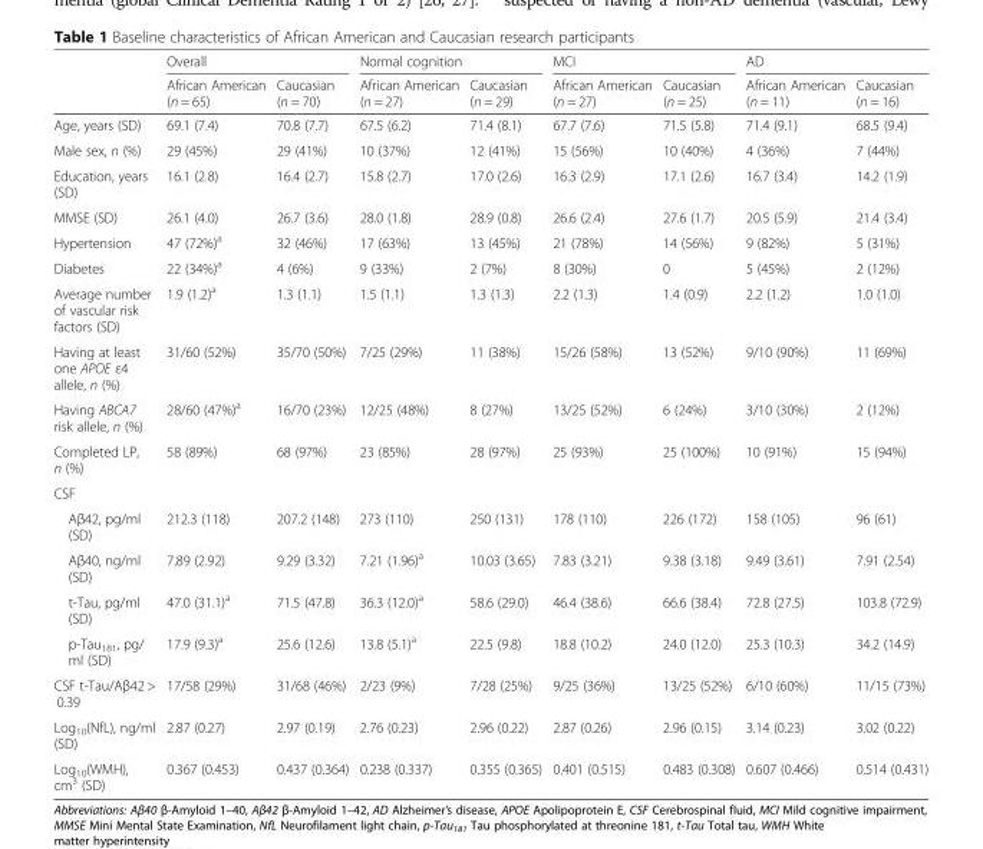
<table><thead><tr><td rowspan="2"></td><td colspan="2">Overall</td><td colspan="2">Normal cognition</td><td colspan="2">MCI</td><td colspan="2">AD</td></tr><tr><td>African American (n = 65)</td><td>Caucasian (n = 70)</td><td>African American (n = 27)</td><td>Caucasian (n = 29)</td><td>African American (n = 27)</td><td>Caucasian (n = 25)</td><td>African American (n = 11)</td><td>Caucasian (n = 16)</td></tr></thead><tbody><tr><td>Age, years (SD)</td><td>69.1 (7.4)</td><td>70.8 (7.7)</td><td>67.5 (6.2)</td><td>71.4 (8.1)</td><td>67.7 (7.6)</td><td>71.5 (5.8)</td><td>71.4 (9.1)</td><td>68.5 (9.4)</td></tr><tr><td>Male sex, n (%)</td><td>29 (45%)</td><td>29 (41%)</td><td>10 (37%)</td><td>12 (41%)</td><td>15 (56%)</td><td>10 (40%)</td><td>4 (36%)</td><td>7 (44%)</td></tr><tr><td>Education, years (SD)</td><td>16.1 (2.8)</td><td>16.4 (2.7)</td><td>15.8 (2.7)</td><td>17.0 (2.6)</td><td>16.3 (2.9)</td><td>17.1 (2.6)</td><td>16.7 (3.4)</td><td>14.2 (1.9)</td></tr><tr><td>MMSE (SD)</td><td>26.1 (4.0)</td><td>26.7 (3.6)</td><td>28.0 (1.8)</td><td>28.9 (0.8)</td><td>26.6 (2.4)</td><td>27.6 (1.7)</td><td>20.5 (5.9)</td><td>21.4 (3.4)</td></tr><tr><td>Hypertension</td><td>47 (72%)<sup>a</sup></td><td>32 (46%)</td><td>17 (63%)</td><td>13 (45%)</td><td>21 (78%)</td><td>14 (56%)</td><td>9 (82%)</td><td>5 (31%)</td></tr><tr><td>Diabetes</td><td>22 (34%)<sup>a</sup></td><td>4 (6%)</td><td>9 (33%)</td><td>2 (7%)</td><td>8 (30%)</td><td>0</td><td>5 (45%)</td><td>2 (12%)</td></tr><tr><td>Average number of vascular risk factors (SD)</td><td>1.9 (1.2)<sup>a</sup></td><td>1.3 (1.1)</td><td>1.5 (1.1)</td><td>1.3 (1.3)</td><td>2.2 (1.3)</td><td>1.4 (0.9)</td><td>2.2 (1.2)</td><td>1.0 (1.0)</td></tr><tr><td>Having at least one APOE ε4 allele, n (%)</td><td>31/60 (52%)</td><td>35/70 (50%)</td><td>7/25 (29%)</td><td>11 (38%)</td><td>15/26 (58%)</td><td>13 (52%)</td><td>9/10 (90%)</td><td>11 (69%)</td></tr><tr><td>Having ABCA7 risk allele, n (%)</td><td>28/60 (47%)<sup>a</sup></td><td>16/70 (23%)</td><td>12/25 (48%)</td><td>8 (27%)</td><td>13/25 (52%)</td><td>6 (24%)</td><td>3/10 (30%)</td><td>2 (12%)</td></tr><tr><td>Completed LP, n (%)</td><td>58 (89%)</td><td>68 (97%)</td><td>23 (85%)</td><td>28 (97%)</td><td>25 (93%)</td><td>25 (100%)</td><td>10 (91%)</td><td>15 (94%)</td></tr><tr><td colspan="9">CSF</td></tr><tr><td>Aβ42, pg/ml (SD)</td><td>212.3 (118)</td><td>207.2 (148)</td><td>273 (110)</td><td>250 (131)</td><td>178 (110)</td><td>226 (172)</td><td>158 (105)</td><td>96 (61)</td></tr><tr><td>Aβ40, ng/ml (SD)</td><td>7.89 (2.92)</td><td>9.29 (3.32)</td><td>7.21 (1.96)<sup>a</sup></td><td>10.03 (3.65)</td><td>7.83 (3.21)</td><td>9.38 (3.18)</td><td>9.49 (3.61)</td><td>7.91 (2.54)</td></tr><tr><td>t-Tau, pg/ml (SD)</td><td>47.0 (31.1)<sup>a</sup></td><td>71.5 (47.8)</td><td>36.3 (12.0)<sup>a</sup></td><td>58.6 (29.0)</td><td>46.4 (38.6)</td><td>66.6 (38.4)</td><td>72.8 (27.5)</td><td>103.8 (72.9)</td></tr><tr><td>p-Tau<sub>181</sub>, pg/ ml (SD)</td><td>17.9 (9.3)<sup>a</sup></td><td>25.6 (12.6)</td><td>13.8 (5.1)<sup>a</sup></td><td>22.5 (9.8)</td><td>18.8 (10.2)</td><td>24.0 (12.0)</td><td>25.3 (10.3)</td><td>34.2 (14.9)</td></tr><tr><td>CSF t-Tau/Aβ42 &gt; 0.39</td><td>17/58 (29%)</td><td>31/68 (46%)</td><td>2/23 (9%)</td><td>7/28 (25%)</td><td>9/25 (36%)</td><td>13/25 (52%)</td><td>6/10 (60%)</td><td>11/15 (73%)</td></tr><tr><td>Log<sub>10</sub>(NfL), ng/ml (SD)</td><td>2.87 (0.27)</td><td>2.97 (0.19)</td><td>2.76 (0.23)</td><td>2.96 (0.22)</td><td>2.87 (0.26)</td><td>2.96 (0.15)</td><td>3.14 (0.23)</td><td>3.02 (0.22)</td></tr><tr><td>Log<sub>10</sub>(WMH), cm<sup>3</sup> (SD)</td><td>0.367 (0.453)</td><td>0.437 (0.364)</td><td>0.238 (0.337)</td><td>0.355 (0.365)</td><td>0.401 (0.515)</td><td>0.483 (0.308)</td><td>0.607 (0.466)</td><td>0.514 (0.431)</td></tr></tbody></table>